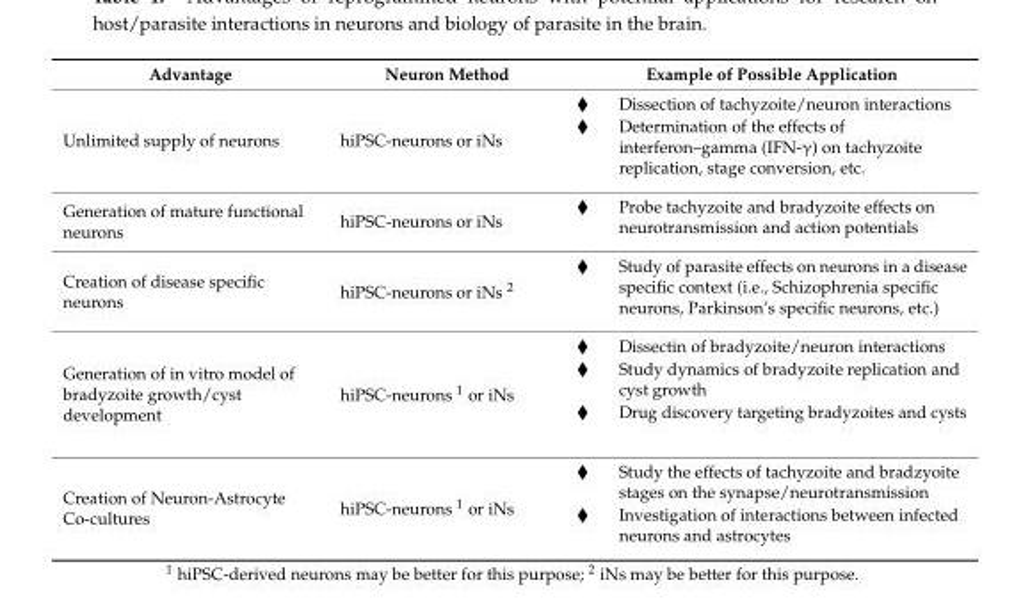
<table><thead><tr><td>Advantage</td><td>Neuron Method</td><td>Example of Possible Application</td></tr></thead><tbody><tr><td>Unlimited supply of neurons</td><td>hiPSC-neurons or iNs</td><td>♦ Dissection of tachyzoite/neuron interactions ♦ Determination of the effects of interferon–gamma (IFN-γ) on tachyzoite replication, stage conversion, etc.</td></tr><tr><td>Generation of mature functional neurons</td><td>hiPSC-neurons or iNs</td><td>♦ Probe tachyzoite and bradyzoite effects on neurotransmission and action potentials</td></tr><tr><td>Creation of disease specific neurons</td><td>hiPSC-neurons or iNs <sup>2</sup></td><td>♦ Study of parasite effects on neurons in a disease specific context (i.e., Schizophrenia specific neurons, Parkinson’s specific neurons, etc.)</td></tr><tr><td>Generation of in vitro model of bradyzoite growth/cyst development</td><td>hiPSC-neurons <sup>1</sup> or iNs</td><td>♦ Dissectin of bradyzoite/neuron interactions ♦ Study dynamics of bradyzoite replication and cyst growth ♦ Drug discovery targeting bradyzoites and cysts</td></tr><tr><td>Creation of Neuron-Astrocyte Co-cultures</td><td>hiPSC-neurons <sup>1</sup> or iNs</td><td>♦ Study the effects of tachyzoite and bradzyoite stages on the synapse/neurotransmission ♦ Investigation of interactions between infected neurons and astrocytes</td></tr></tbody></table>